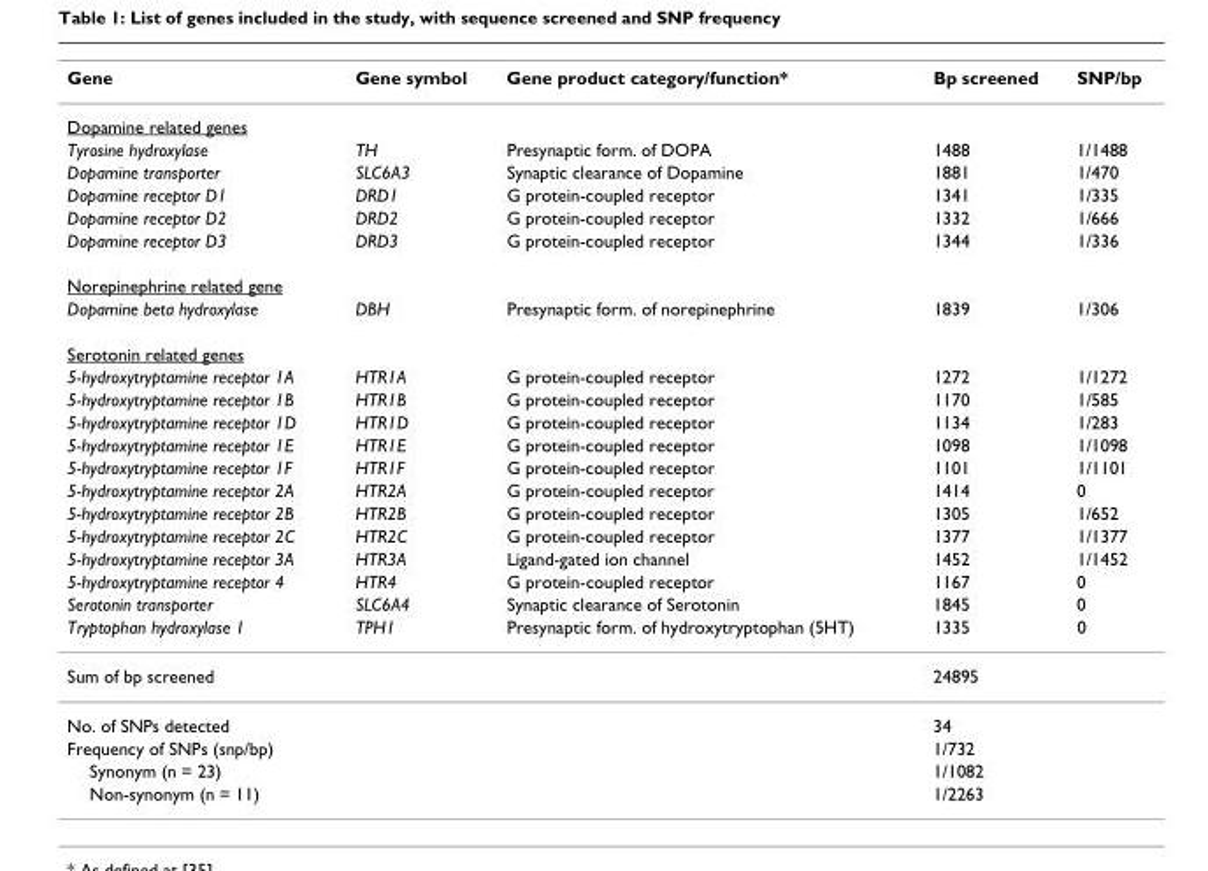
<table><tbody><tr><td>Gene</td><td>Gene symbol</td><td>Gene product category/function*</td><td>Bp screened</td><td>SNP/bp</td></tr><tr><td colspan="5">Dopamine related genes</td></tr><tr><td>Tyrosine hydroxylase</td><td>TH</td><td>Presynaptic form. of DOPA</td><td>1488</td><td>1/1488</td></tr><tr><td>Dopamine transporter</td><td>SLC6A3</td><td>Synaptic clearance of Dopamine</td><td>1881</td><td>1/470</td></tr><tr><td>Dopamine receptor D1</td><td>DRD1</td><td>G protein-coupled receptor</td><td>1341</td><td>1/335</td></tr><tr><td>Dopamine receptor D2</td><td>DRD2</td><td>G protein-coupled receptor</td><td>1332</td><td>1/666</td></tr><tr><td>Dopamine receptor D3</td><td>DRD3</td><td>G protein-coupled receptor</td><td>1344</td><td>1/336</td></tr><tr><td colspan="5">Norepinephrine related gene</td></tr><tr><td>Dopamine beta hydroxylase</td><td>DBH</td><td>Presynaptic form. of norepinephrine</td><td>1839</td><td>1/306</td></tr><tr><td colspan="5">Serotonin related genes</td></tr><tr><td>5-hydroxytryptamine receptor 1A</td><td>HTR1A</td><td>G protein-coupled receptor</td><td>1272</td><td>1/1272</td></tr><tr><td>5-hydroxytryptamine receptor 1B</td><td>HTR1B</td><td>G protein-coupled receptor</td><td>1170</td><td>1/585</td></tr><tr><td>5-hydroxytryptamine receptor 1D</td><td>HTR1D</td><td>G protein-coupled receptor</td><td>1134</td><td>1/283</td></tr><tr><td>5-hydroxytryptamine receptor 1E</td><td>HTR1E</td><td>G protein-coupled receptor</td><td>1098</td><td>1/1098</td></tr><tr><td>5-hydroxytryptamine receptor 1F</td><td>HTR1F</td><td>G protein-coupled receptor</td><td>1101</td><td>1/1101</td></tr><tr><td>5-hydroxytryptamine receptor 2A</td><td>HTR2A</td><td>G protein-coupled receptor</td><td>1414</td><td>0</td></tr><tr><td>5-hydroxytryptamine receptor 2B</td><td>HTR2B</td><td>G protein-coupled receptor</td><td>1305</td><td>1/652</td></tr><tr><td>5-hydroxytryptamine receptor 2C</td><td>HTR2C</td><td>G protein-coupled receptor</td><td>1377</td><td>1/1377</td></tr><tr><td>5-hydroxytryptamine receptor 3A</td><td>HTR3A</td><td>Ligand-gated ion channel</td><td>1452</td><td>1/1452</td></tr><tr><td>5-hydroxytryptamine receptor 4</td><td>HTR4</td><td>G protein-coupled receptor</td><td>1167</td><td>0</td></tr><tr><td>Serotonin transporter</td><td>SLC6A4</td><td>Synaptic clearance of Serotonin</td><td>1845</td><td>0</td></tr><tr><td>Tryptophan hydroxylase 1</td><td>TPH1</td><td>Presynaptic form. of hydroxytryptophan (5HT)</td><td>1335</td><td>0</td></tr><tr><td>Sum of bp screened</td><td></td><td></td><td>24895</td><td></td></tr><tr><td>No. of SNPs detected</td><td></td><td></td><td>34</td><td></td></tr><tr><td>Frequency of SNPs (snp/bp)</td><td></td><td></td><td>1/732</td><td></td></tr><tr><td>Synonym (n = 23)</td><td></td><td></td><td>1/1082</td><td></td></tr><tr><td>Non-synonym (n = 11)</td><td></td><td></td><td>1/2263</td><td></td></tr></tbody></table>